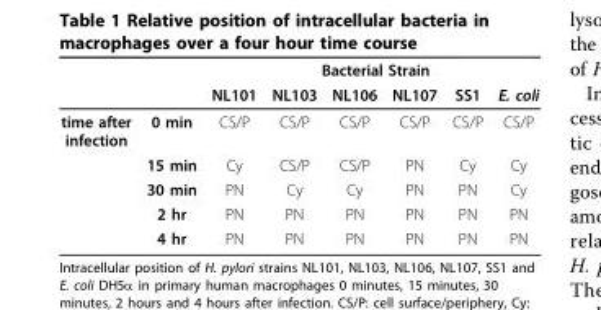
<table><thead><tr><td rowspan="2"></td><td rowspan="2"></td><td colspan="6">Bacterial Strain</td></tr><tr><td>NL101</td><td>NL103</td><td>NL106</td><td>NL107</td><td>SS1</td><td>E. coli</td></tr></thead><tbody><tr><td rowspan="5">time after infection</td><td>0 min</td><td>CS/P</td><td>CS/P</td><td>CS/P</td><td>CS/P</td><td>CS/P</td><td>CS/P</td></tr><tr><td>15 min</td><td>Cy</td><td>CS/P</td><td>CS/P</td><td>PN</td><td>Cy</td><td>Cy</td></tr><tr><td>30 min</td><td>PN</td><td>Cy</td><td>Cy</td><td>PN</td><td>PN</td><td>Cy</td></tr><tr><td>2 hr</td><td>PN</td><td>PN</td><td>PN</td><td>PN</td><td>PN</td><td>PN</td></tr><tr><td>4 hr</td><td>PN</td><td>PN</td><td>PN</td><td>PN</td><td>PN</td><td>PN</td></tr></tbody></table>